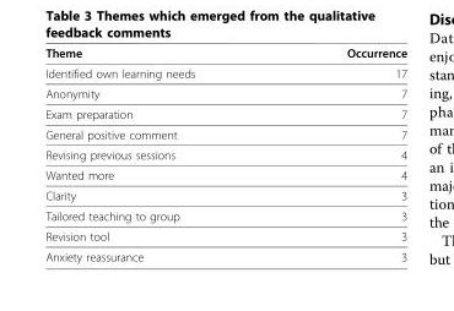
<table><thead><tr><td>Theme</td><td>Occurrence</td></tr></thead><tbody><tr><td>Identified own learning needs</td><td>17</td></tr><tr><td>Anonymity</td><td>7</td></tr><tr><td>Exam preparation</td><td>7</td></tr><tr><td>General positive comment</td><td>7</td></tr><tr><td>Revising previous sessions</td><td>4</td></tr><tr><td>Wanted more</td><td>4</td></tr><tr><td>Clarity</td><td>3</td></tr><tr><td>Tailored teaching to group</td><td>3</td></tr><tr><td>Revision tool</td><td>3</td></tr><tr><td>Anxiety reassurance</td><td>3</td></tr></tbody></table>